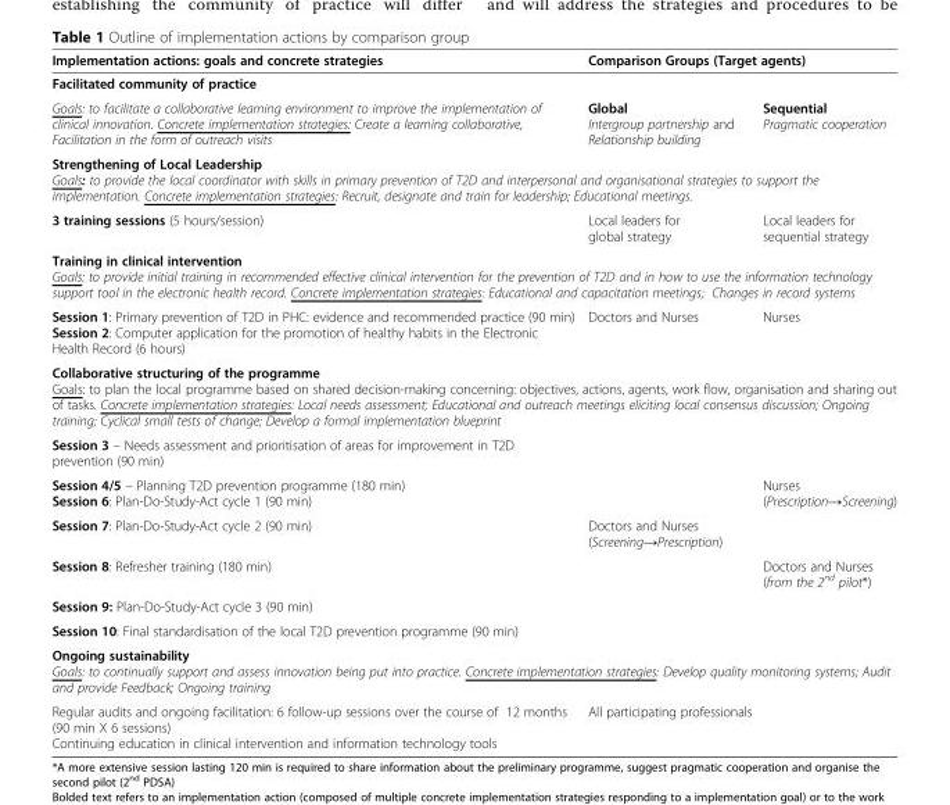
<table><thead><tr><td rowspan="2">Implementation actions: goals and concrete strategies Facilitated community of practice</td><td colspan="2">Comparison Groups (Target agents)</td></tr><tr><td></td><td></td></tr></thead><tbody><tr><td>Goals: to facilitate a collaborative learning environment to improve the implementation of clinical innovation. Concrete implementation strategies: Create a learning collaborative, Facilitation in the form of outreach visits</td><td>Global Intergroup partnership and Relationship building</td><td>Sequential Pragmatic cooperation</td></tr><tr><td colspan="3">Strengthening of Local Leadership Goals: to provide the local coordinator with skills in primary prevention of T2D and interpersonal and organisational strategies to support the implementation. Concrete implementation strategies: Recruit, designate and train for leadership; Educational meetings.</td></tr><tr><td>3 training sessions (5 hours/session)</td><td>Local leaders for global strategy</td><td>Local leaders for sequential strategy</td></tr><tr><td colspan="3">Training in clinical intervention Goals: to provide initial training in recommended effective clinical intervention for the prevention of T2D and in how to use the information technology support tool in the electronic health record. Concrete implementation strategies: Educational and capacitation meetings; Changes in record systems</td></tr><tr><td>Session 1: Primary prevention of T2D in PHC: evidence and recommended practice (90 min) Session 2: Computer application for the promotion of healthy habits in the Electronic Health Record (6 hours)</td><td>Doctors and Nurses</td><td>Nurses</td></tr><tr><td colspan="3">Collaborative structuring of the programme Goals: to plan the local programme based on shared decision-making concerning: objectives, actions, agents, work flow, organisation and sharing out of tasks. Concrete implementation strategies: Local needs assessment; Educational and outreach meetings eliciting local consensus discussion; Ongoing training; Cyclical small tests of change; Develop a formal implementation blueprint</td></tr><tr><td colspan="3">Session 3 – Needs assessment and prioritisation of areas for improvement in T2D prevention (90 min)</td></tr><tr><td>Session 4/5 – Planning T2D prevention programme (180 min) Session 6: Plan-Do-Study-Act cycle 1 (90 min)</td><td></td><td>Nurses (Prescription→Screening)</td></tr><tr><td>Session 7: Plan-Do-Study-Act cycle 2 (90 min)</td><td>Doctors and Nurses (Screening→Prescription)</td><td></td></tr><tr><td>Session 8: Refresher training (180 min)</td><td></td><td>Doctors and Nurses (from the 2<sup>nd</sup> pilot*)</td></tr><tr><td colspan="3">Session 9: Plan-Do-Study-Act cycle 3 (90 min)</td></tr><tr><td colspan="3">Session 10: Final standardisation of the local T2D prevention programme (90 min)</td></tr><tr><td colspan="3">Ongoing sustainability Goals: to continually support and assess innovation being put into practice. Concrete implementation strategies: Develop quality monitoring systems; Audit and provide Feedback; Ongoing training</td></tr><tr><td>Regular audits and ongoing facilitation: 6 follow-up sessions over the course of 12 months (90 min X 6 sessions) Continuing education in clinical intervention and information technology tools</td><td colspan="2">All participating professionals</td></tr></tbody></table>